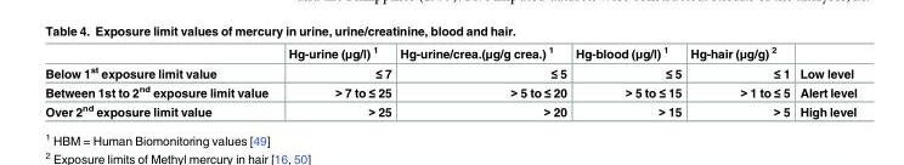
<table><thead><tr><td></td><td>Hg-urine (μg/l) <sup>1</sup></td><td>Hg-urine/crea.(μg/g crea.) <sup>1</sup></td><td>Hg-blood (μg/l) <sup>1</sup></td><td>Hg-hair (μg/g) <sup>2</sup></td><td></td></tr></thead><tbody><tr><td>Below 1<sup>st</sup> exposure limit value</td><td>≤ 7</td><td>≤ 5</td><td>≤ 5</td><td>≤ 1</td><td>Low level</td></tr><tr><td>Between 1st to 2<sup>nd</sup> exposure limit value</td><td>&gt; 7 to ≤ 25</td><td>&gt; 5 to ≤ 20</td><td>&gt; 5 to ≤ 15</td><td>&gt; 1 to ≤ 5</td><td>Alert level</td></tr><tr><td>Over 2<sup>nd</sup> exposure limit value</td><td>&gt; 25</td><td>&gt; 20</td><td>&gt; 15</td><td>&gt; 5</td><td>High level</td></tr></tbody></table>